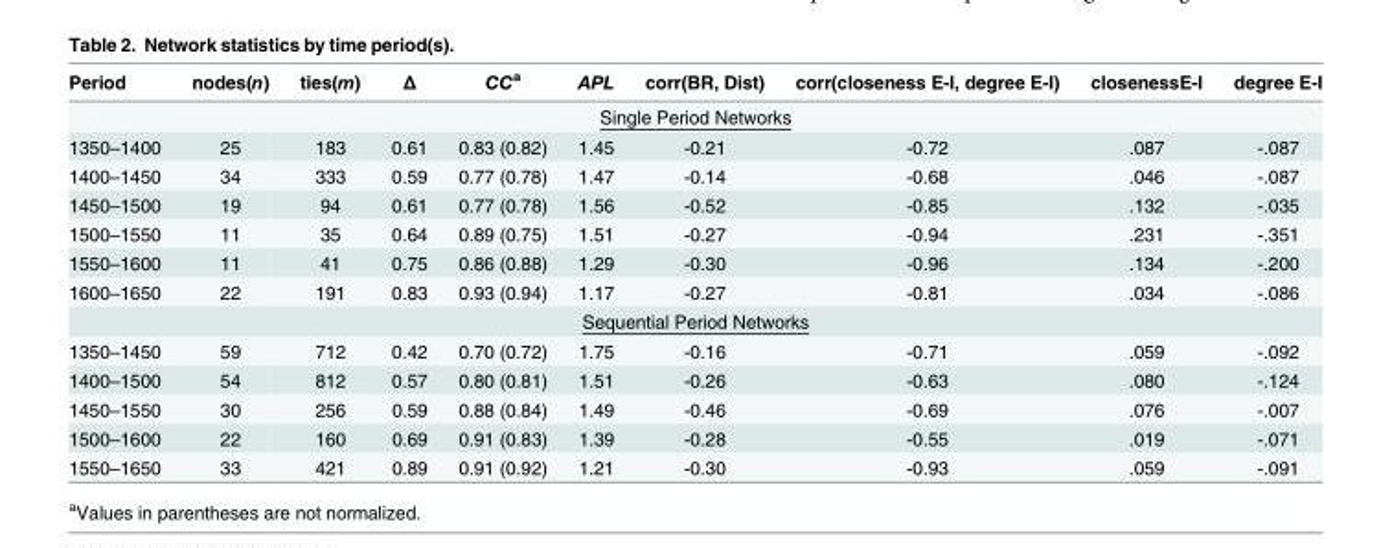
<table><thead><tr><td>Period</td><td>nodes(n)</td><td>ties(m)</td><td>Δ</td><td>CC<sup>a</sup></td><td>APL</td><td>corr(BR, Dist)</td><td>corr(closeness E-I, degree E-I)</td><td>closenessE-I</td><td>degree E-I</td></tr></thead><tbody><tr><td colspan="10">Single Period Networks</td></tr><tr><td>1350–1400</td><td>25</td><td>183</td><td>0.61</td><td>0.83 (0.82)</td><td>1.45</td><td>-0.21</td><td>-0.72</td><td>.087</td><td>-.087</td></tr><tr><td>1400–1450</td><td>34</td><td>333</td><td>0.59</td><td>0.77 (0.78)</td><td>1.47</td><td>-0.14</td><td>-0.68</td><td>.046</td><td>-.087</td></tr><tr><td>1450–1500</td><td>19</td><td>94</td><td>0.61</td><td>0.77 (0.78)</td><td>1.56</td><td>-0.52</td><td>-0.85</td><td>.132</td><td>-.035</td></tr><tr><td>1500–1550</td><td>11</td><td>35</td><td>0.64</td><td>0.89 (0.75)</td><td>1.51</td><td>-0.27</td><td>-0.94</td><td>.231</td><td>-.351</td></tr><tr><td>1550–1600</td><td>11</td><td>41</td><td>0.75</td><td>0.86 (0.88)</td><td>1.29</td><td>-0.30</td><td>-0.96</td><td>.134</td><td>-.200</td></tr><tr><td>1600–1650</td><td>22</td><td>191</td><td>0.83</td><td>0.93 (0.94)</td><td>1.17</td><td>-0.27</td><td>-0.81</td><td>.034</td><td>-.086</td></tr><tr><td colspan="10">Sequential Period Networks</td></tr><tr><td>1350–1450</td><td>59</td><td>712</td><td>0.42</td><td>0.70 (0.72)</td><td>1.75</td><td>-0.16</td><td>-0.71</td><td>.059</td><td>-.092</td></tr><tr><td>1400–1500</td><td>54</td><td>812</td><td>0.57</td><td>0.80 (0.81)</td><td>1.51</td><td>-0.26</td><td>-0.63</td><td>.080</td><td>-.124</td></tr><tr><td>1450–1550</td><td>30</td><td>256</td><td>0.59</td><td>0.88 (0.84)</td><td>1.49</td><td>-0.46</td><td>-0.69</td><td>.076</td><td>-.007</td></tr><tr><td>1500–1600</td><td>22</td><td>160</td><td>0.69</td><td>0.91 (0.83)</td><td>1.39</td><td>-0.28</td><td>-0.55</td><td>.019</td><td>-.071</td></tr><tr><td>1550–1650</td><td>33</td><td>421</td><td>0.89</td><td>0.91 (0.92)</td><td>1.21</td><td>-0.30</td><td>-0.93</td><td>.059</td><td>-.091</td></tr></tbody></table>